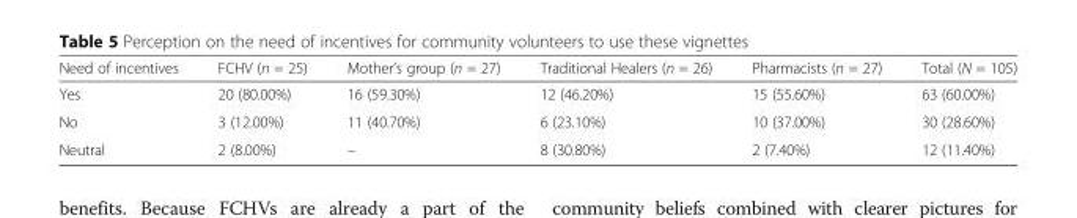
<table><thead><tr><td>Need of incentives</td><td>FCHV (n = 25)</td><td>Mother’s group (n = 27)</td><td>Traditional Healers (n = 26)</td><td>Pharmacists (n = 27)</td><td>Total (N = 105)</td></tr></thead><tbody><tr><td>Yes</td><td>20 (80.00%)</td><td>16 (59.30%)</td><td>12 (46.20%)</td><td>15 (55.60%)</td><td>63 (60.00%)</td></tr><tr><td>No</td><td>3 (12.00%)</td><td>11 (40.70%)</td><td>6 (23.10%)</td><td>10 (37.00%)</td><td>30 (28.60%)</td></tr><tr><td>Neutral</td><td>2 (8.00%)</td><td>–</td><td>8 (30.80%)</td><td>2 (7.40%)</td><td>12 (11.40%)</td></tr></tbody></table>